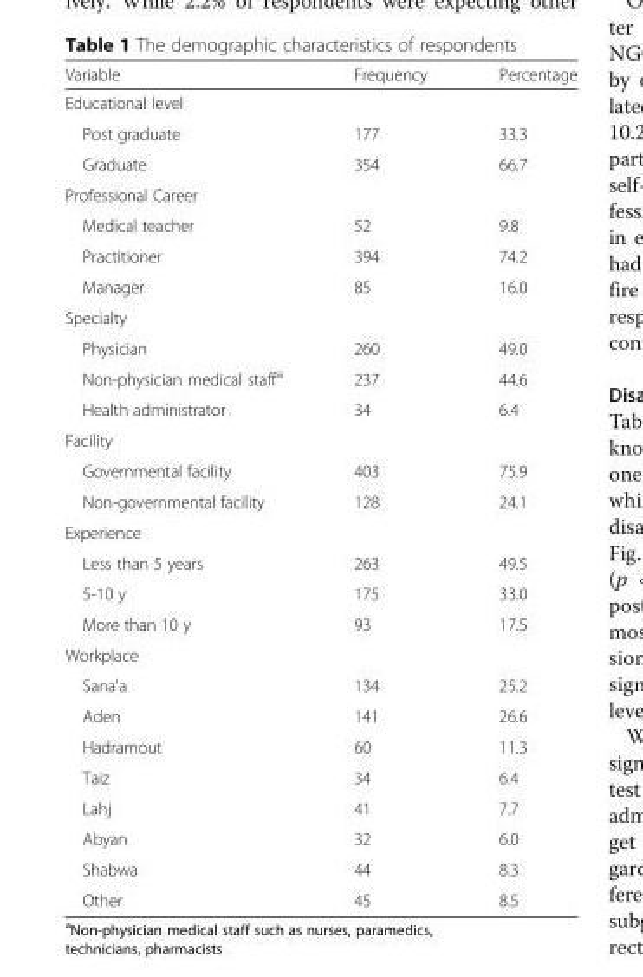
<table><thead><tr><td>Variable</td><td>Frequency</td><td>Percentage</td></tr></thead><tbody><tr><td colspan="3">Educational level</td></tr><tr><td>Post graduate</td><td>177</td><td>33.3</td></tr><tr><td>Graduate</td><td>354</td><td>66.7</td></tr><tr><td colspan="3">Professional Career</td></tr><tr><td>Medical teacher</td><td>52</td><td>9.8</td></tr><tr><td>Practitioner</td><td>394</td><td>74.2</td></tr><tr><td>Manager</td><td>85</td><td>16.0</td></tr><tr><td colspan="3">Specialty</td></tr><tr><td>Physician</td><td>260</td><td>49.0</td></tr><tr><td>Non-physician medical staff<sup>a</sup></td><td>237</td><td>44.6</td></tr><tr><td>Health administrator</td><td>34</td><td>6.4</td></tr><tr><td colspan="3">Facility</td></tr><tr><td>Governmental facility</td><td>403</td><td>75.9</td></tr><tr><td>Non-governmental facility</td><td>128</td><td>24.1</td></tr><tr><td colspan="3">Experience</td></tr><tr><td>Less than 5 years</td><td>263</td><td>49.5</td></tr><tr><td>5-10 y</td><td>175</td><td>33.0</td></tr><tr><td>More than 10 y</td><td>93</td><td>17.5</td></tr><tr><td colspan="3">Workplace</td></tr><tr><td>Sana’a</td><td>134</td><td>25.2</td></tr><tr><td>Aden</td><td>141</td><td>26.6</td></tr><tr><td>Hadramout</td><td>60</td><td>11.3</td></tr><tr><td>Taiz</td><td>34</td><td>6.4</td></tr><tr><td>Lahj</td><td>41</td><td>7.7</td></tr><tr><td>Abyan</td><td>32</td><td>6.0</td></tr><tr><td>Shabwa</td><td>44</td><td>8.3</td></tr><tr><td>Other</td><td>45</td><td>8.5</td></tr></tbody></table>